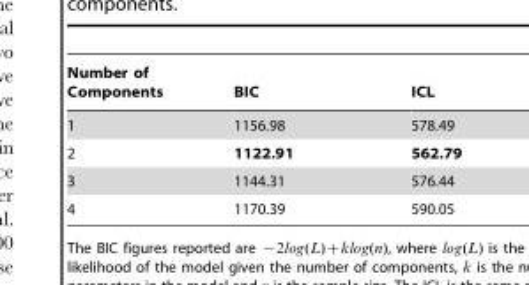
<table><thead><tr><td>Number of Components</td><td>BIC</td><td>ICL</td></tr></thead><tbody><tr><td>1</td><td>1156.98</td><td>578.49</td></tr><tr><td>2</td><td>1122.91</td><td>562.79</td></tr><tr><td>3</td><td>1144.31</td><td>576.44</td></tr><tr><td>4</td><td>1170.39</td><td>590.05</td></tr></tbody></table>